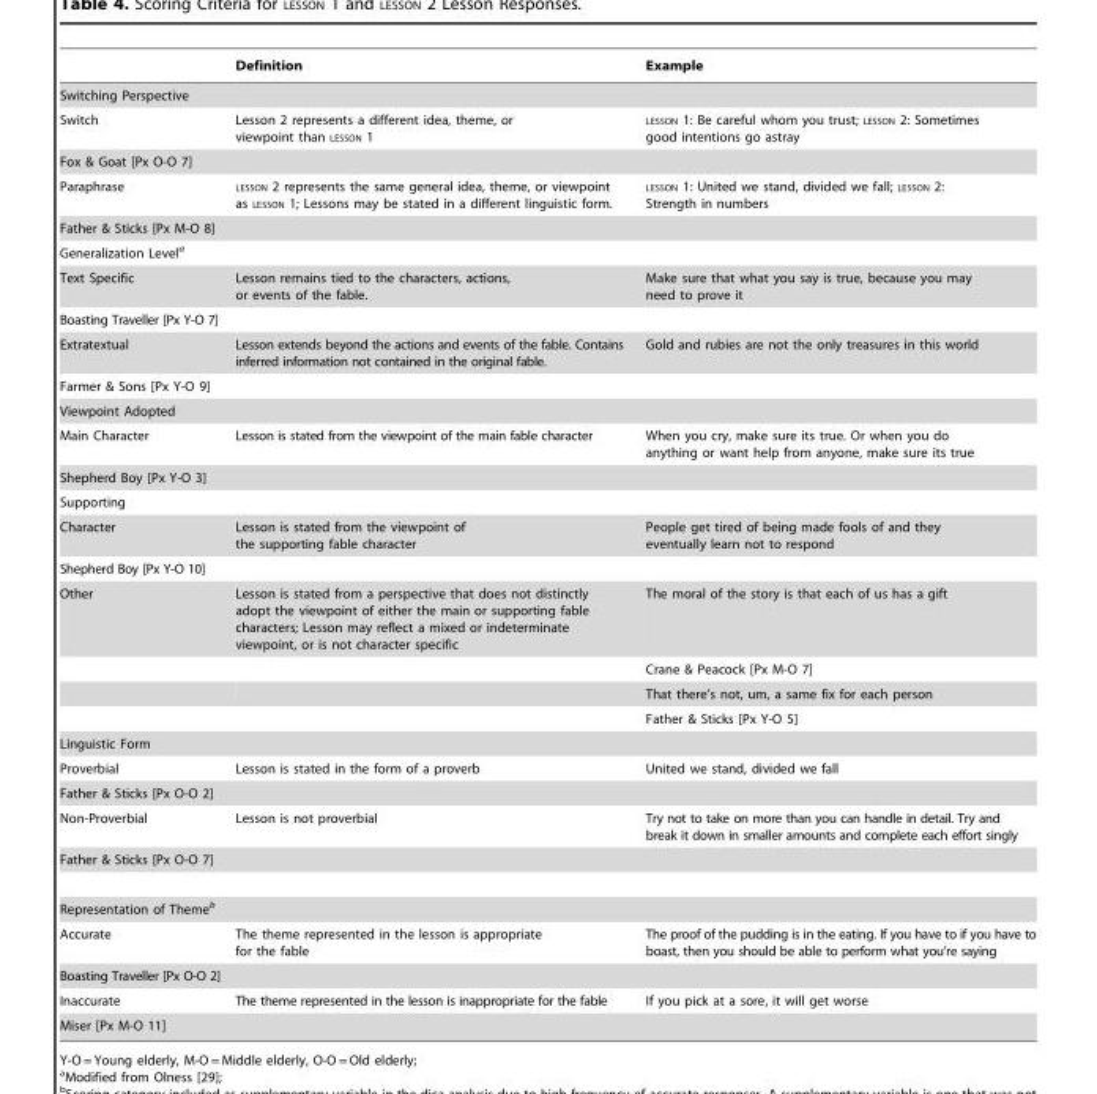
<table><thead><tr><td></td><td>Definition</td><td>Example</td></tr></thead><tbody><tr><td colspan="3">Switching Perspective</td></tr><tr><td>Switch</td><td>Lesson 2 represents a different idea, theme, or viewpoint than LESSON 1</td><td>LESSON 1: Be careful whom you trust; LESSON 2: Sometimes good intentions go astray</td></tr><tr><td colspan="3">Fox &amp; Goat [Px O-O 7]</td></tr><tr><td>Paraphrase</td><td>LESSON 2 represents the same general idea, theme, or viewpoint as LESSON 1; Lessons may be stated in a different linguistic form.</td><td>LESSON 1: United we stand, divided we fall; LESSON 2: Strength in numbers</td></tr><tr><td colspan="3">Father &amp; Sticks [Px M-O 8]</td></tr><tr><td colspan="3">Generalization Level<sup>a</sup></td></tr><tr><td>Text Specific</td><td>Lesson remains tied to the characters, actions, or events of the fable.</td><td>Make sure that what you say is true, because you may need to prove it</td></tr><tr><td colspan="3">Boasting Traveller [Px Y-O 7]</td></tr><tr><td>Extratextual</td><td>Lesson extends beyond the actions and events of the fable. Contains inferred information not contained in the original fable.</td><td>Gold and rubies are not the only treasures in this world</td></tr><tr><td colspan="3">Farmer &amp; Sons [Px Y-O 9]</td></tr><tr><td colspan="3">Viewpoint Adopted</td></tr><tr><td>Main Character</td><td>Lesson is stated from the viewpoint of the main fable character</td><td>When you cry, make sure its true. Or when you do anything or want help from anyone, make sure its true</td></tr><tr><td colspan="3">Shepherd Boy [Px Y-O 3]</td></tr><tr><td colspan="3">Supporting</td></tr><tr><td>Character</td><td>Lesson is stated from the viewpoint of the supporting fable character</td><td>People get tired of being made fools of and they eventually learn not to respond</td></tr><tr><td colspan="3">Shepherd Boy [Px Y-O 10]</td></tr><tr><td rowspan="4">Other</td><td>Lesson is stated from a perspective that does not distinctly adopt the viewpoint of either the main or supporting fable characters; Lesson may reflect a mixed or indeterminate viewpoint, or is not character specific</td><td>The moral of the story is that each of us has a gift</td></tr><tr><td></td><td>Crane &amp; Peacock [Px M-O 7]</td></tr><tr><td></td><td>That there’s not, um, a same fix for each person</td></tr><tr><td></td><td>Father &amp; Sticks [Px Y-O 5]</td></tr><tr><td colspan="3">Linguistic Form</td></tr><tr><td>Proverbial</td><td>Lesson is stated in the form of a proverb</td><td>United we stand, divided we fall</td></tr><tr><td colspan="3">Father &amp; Sticks [Px O-O 2]</td></tr><tr><td>Non-Proverbial</td><td>Lesson is not proverbial</td><td>Try not to take on more than you can handle in detail. Try and break it down in smaller amounts and complete each effort singly</td></tr><tr><td colspan="3">Father &amp; Sticks [Px O-O 7]</td></tr><tr><td colspan="3">Representation of Theme<sup>b</sup></td></tr><tr><td>Accurate</td><td>The theme represented in the lesson is appropriate for the fable</td><td>The proof of the pudding is in the eating. If you have to if you have to boast, then you should be able to perform what you’re saying</td></tr><tr><td colspan="3">Boasting Traveller [Px O-O 2]</td></tr><tr><td>Inaccurate</td><td>The theme represented in the lesson is inappropriate for the fable</td><td>If you pick at a sore, it will get worse</td></tr><tr><td colspan="3">Miser [Px M-O 11]</td></tr></tbody></table>